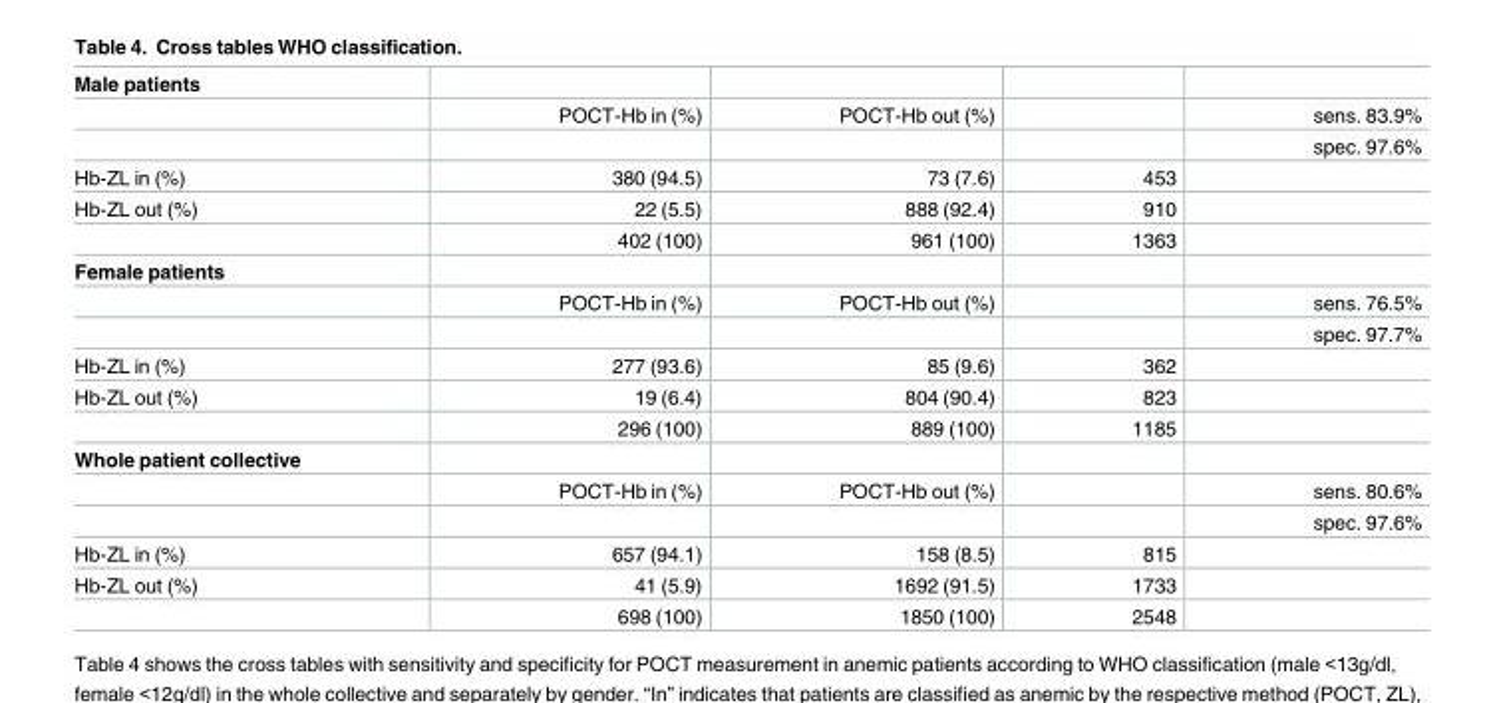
<table><tbody><tr><td colspan="5">Male patients</td></tr><tr><td></td><td>POCT-Hb in (%)</td><td>POCT-Hb out (%)</td><td></td><td>sens. 83.9%</td></tr><tr><td></td><td></td><td></td><td></td><td>spec. 97.6%</td></tr><tr><td>Hb-ZL in (%)</td><td>380 (94.5)</td><td>73 (7.6)</td><td>453</td><td></td></tr><tr><td rowspan="2">Hb-ZL out (%)</td><td>22 (5.5)</td><td>888 (92.4)</td><td>910</td><td></td></tr><tr><td>402 (100)</td><td>961 (100)</td><td>1363</td><td></td></tr><tr><td colspan="5">Female patients</td></tr><tr><td></td><td>POCT-Hb in (%)</td><td>POCT-Hb out (%)</td><td></td><td>sens. 76.5%</td></tr><tr><td></td><td></td><td></td><td></td><td>spec. 97.7%</td></tr><tr><td>Hb-ZL in (%)</td><td>277 (93.6)</td><td>85 (9.6)</td><td>362</td><td></td></tr><tr><td rowspan="2">Hb-ZL out (%)</td><td>19 (6.4)</td><td>804 (90.4)</td><td>823</td><td></td></tr><tr><td>296 (100)</td><td>889 (100)</td><td>1185</td><td></td></tr><tr><td colspan="5">Whole patient collective</td></tr><tr><td></td><td>POCT-Hb in (%)</td><td>POCT-Hb out (%)</td><td></td><td>sens. 80.6%</td></tr><tr><td></td><td></td><td></td><td></td><td>spec. 97.6%</td></tr><tr><td>Hb-ZL in (%)</td><td>657 (94.1)</td><td>158 (8.5)</td><td>815</td><td></td></tr><tr><td rowspan="2">Hb-ZL out (%)</td><td>41 (5.9)</td><td>1692 (91.5)</td><td>1733</td><td></td></tr><tr><td>698 (100)</td><td>1850 (100)</td><td>2548</td><td></td></tr></tbody></table>